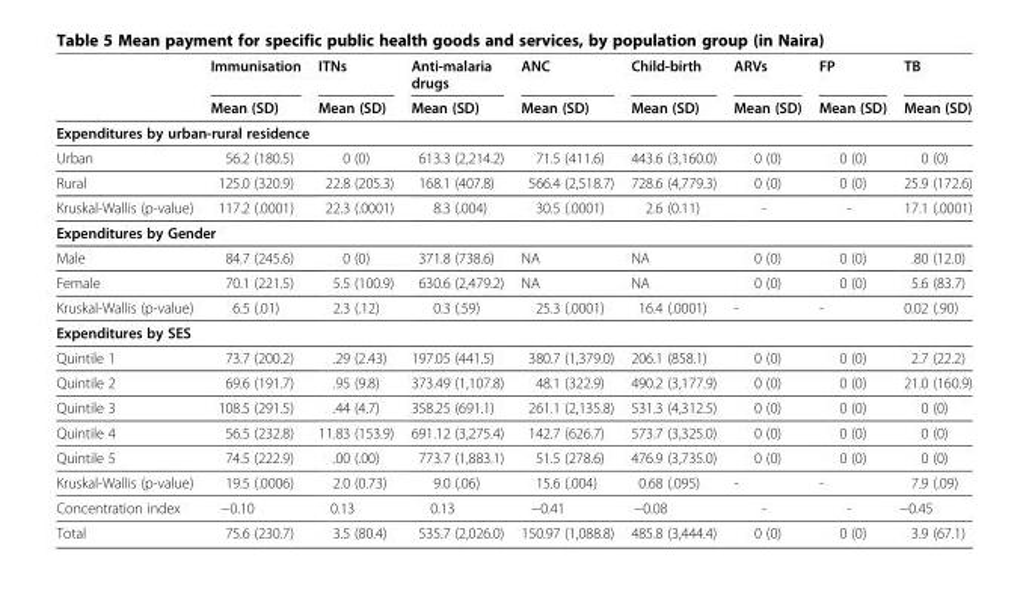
<table><thead><tr><td rowspan="2"></td><td rowspan="2">Immunisation Mean (SD)</td><td rowspan="2">ITNs Mean (SD)</td><td rowspan="2">Anti-malaria drugs Mean (SD)</td><td rowspan="2">ANC Mean (SD)</td><td rowspan="2">Child-birth Mean (SD)</td><td rowspan="2">ARVs Mean (SD)</td><td rowspan="2">FP Mean (SD)</td><td rowspan="2">TB Mean (SD)</td></tr><tr></tr></thead><tbody><tr><td colspan="9">Expenditures by urban-rural residence</td></tr><tr><td>Urban</td><td>56.2 (180.5)</td><td>0 (0)</td><td>613.3 (2,214.2)</td><td>71.5 (411.6)</td><td>443.6 (3,160.0)</td><td>0 (0)</td><td>0 (0)</td><td>0 (0)</td></tr><tr><td>Rural</td><td>125.0 (320.9)</td><td>22.8 (205.3)</td><td>168.1 (407.8)</td><td>566.4 (2,518.7)</td><td>728.6 (4,779.3)</td><td>0 (0)</td><td>0 (0)</td><td>25.9 (172.6)</td></tr><tr><td>Kruskal-Wallis (p-value)</td><td>117.2 (.0001)</td><td>22.3 (.0001)</td><td>8.3 (.004)</td><td>30.5 (.0001)</td><td>2.6 (0.11)</td><td>-</td><td>-</td><td>17.1 (.0001)</td></tr><tr><td colspan="9">Expenditures by Gender</td></tr><tr><td>Male</td><td>84.7 (245.6)</td><td>0 (0)</td><td>371.8 (738.6)</td><td>NA</td><td>NA</td><td>0 (0)</td><td>0 (0)</td><td>.80 (12.0)</td></tr><tr><td>Female</td><td>70.1 (221.5)</td><td>5.5 (100.9)</td><td>630.6 (2,479.2)</td><td>NA</td><td>NA</td><td>0 (0)</td><td>0 (0)</td><td>5.6 (83.7)</td></tr><tr><td>Kruskal-Wallis (p-value)</td><td>6.5 (.01)</td><td>2.3 (.12)</td><td>0.3 (.59)</td><td>25.3 (.0001)</td><td>16.4 (.0001)</td><td>-</td><td>-</td><td>0.02 (.90)</td></tr><tr><td colspan="9">Expenditures by SES</td></tr><tr><td>Quintile 1</td><td>73.7 (200.2)</td><td>.29 (2.43)</td><td>197.05 (441.5)</td><td>380.7 (1,379.0)</td><td>206.1 (858.1)</td><td>0 (0)</td><td>0 (0)</td><td>2.7 (22.2)</td></tr><tr><td>Quintile 2</td><td>69.6 (191.7)</td><td>.95 (9.8)</td><td>373.49 (1,107.8)</td><td>48.1 (322.9)</td><td>490.2 (3,177.9)</td><td>0 (0)</td><td>0 (0)</td><td>21.0 (160.9)</td></tr><tr><td>Quintile 3</td><td>108.5 (291.5)</td><td>.44 (4.7)</td><td>358.25 (691.1)</td><td>261.1 (2,135.8)</td><td>531.3 (4,312.5)</td><td>0 (0)</td><td>0 (0)</td><td>0 (0)</td></tr><tr><td>Quintile 4</td><td>56.5 (232.8)</td><td>11.83 (153.9)</td><td>691.12 (3,275.4)</td><td>142.7 (626.7)</td><td>573.7 (3,325.0)</td><td>0 (0)</td><td>0 (0)</td><td>0 (0)</td></tr><tr><td>Quintile 5</td><td>74.5 (222.9)</td><td>.00 (.00)</td><td>773.7 (1,883.1)</td><td>51.5 (278.6)</td><td>476.9 (3,735.0)</td><td>0 (0)</td><td>0 (0)</td><td>0 (0)</td></tr><tr><td>Kruskal-Wallis (p-value)</td><td>19.5 (.0006)</td><td>2.0 (0.73)</td><td>9.0 (.06)</td><td>15.6 (.004)</td><td>0.68 (.095)</td><td>-</td><td>-</td><td>7.9 (.09)</td></tr><tr><td>Concentration index</td><td>−0.10</td><td>0.13</td><td>0.13</td><td>−0.41</td><td>−0.08</td><td>-</td><td>-</td><td>−0.45</td></tr><tr><td>Total</td><td>75.6 (230.7)</td><td>3.5 (80.4)</td><td>535.7 (2,026.0)</td><td>150.97 (1,088.8)</td><td>485.8 (3,444.4)</td><td>0 (0)</td><td>0 (0)</td><td>3.9 (67.1)</td></tr></tbody></table>